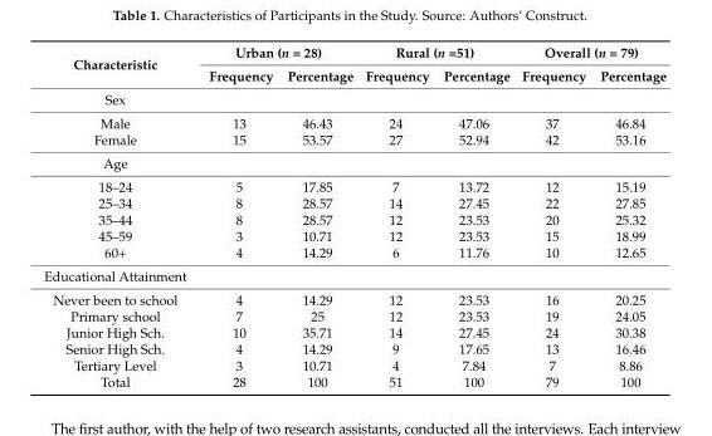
<table><thead><tr><td rowspan="2">Characteristic</td><td colspan="2">Urban (n = 28)</td><td colspan="2">Rural (n =51)</td><td colspan="2">Overall (n = 79)</td></tr><tr><td>Frequency</td><td>Percentage</td><td>Frequency</td><td>Percentage</td><td>Frequency</td><td>Percentage</td></tr></thead><tbody><tr><td colspan="7">Sex</td></tr><tr><td>Male</td><td>13</td><td>46.43</td><td>24</td><td>47.06</td><td>37</td><td>46.84</td></tr><tr><td>Female</td><td>15</td><td>53.57</td><td>27</td><td>52.94</td><td>42</td><td>53.16</td></tr><tr><td colspan="7">Age</td></tr><tr><td>18–24</td><td>5</td><td>17.85</td><td>7</td><td>13.72</td><td>12</td><td>15.19</td></tr><tr><td>25–34</td><td>8</td><td>28.57</td><td>14</td><td>27.45</td><td>22</td><td>27.85</td></tr><tr><td>35–44</td><td>8</td><td>28.57</td><td>12</td><td>23.53</td><td>20</td><td>25.32</td></tr><tr><td>45–59</td><td>3</td><td>10.71</td><td>12</td><td>23.53</td><td>15</td><td>18.99</td></tr><tr><td>60+</td><td>4</td><td>14.29</td><td>6</td><td>11.76</td><td>10</td><td>12.65</td></tr><tr><td colspan="7">Educational Attainment</td></tr><tr><td>Never been to school</td><td>4</td><td>14.29</td><td>12</td><td>23.53</td><td>16</td><td>20.25</td></tr><tr><td>Primary school</td><td>7</td><td>25</td><td>12</td><td>23.53</td><td>19</td><td>24.05</td></tr><tr><td>Junior High Sch.</td><td>10</td><td>35.71</td><td>14</td><td>27.45</td><td>24</td><td>30.38</td></tr><tr><td>Senior High Sch.</td><td>4</td><td>14.29</td><td>9</td><td>17.65</td><td>13</td><td>16.46</td></tr><tr><td>Tertiary Level</td><td>3</td><td>10.71</td><td>4</td><td>7.84</td><td>7</td><td>8.86</td></tr><tr><td>Total</td><td>28</td><td>100</td><td>51</td><td>100</td><td>79</td><td>100</td></tr></tbody></table>